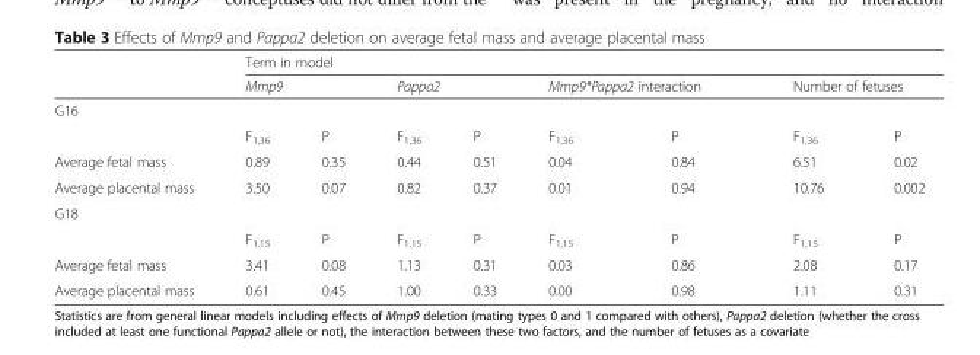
<table><thead><tr><td rowspan="2"></td><td colspan="8">Term in model</td></tr><tr><td colspan="2">Mmp9</td><td colspan="2">Pappa2</td><td colspan="2">Mmp9*Pappa2 interaction</td><td colspan="2">Number of fetuses</td></tr><tr><td colspan="9">G16</td></tr><tr><td></td><td>F<sub>1,36</sub></td><td>P</td><td>F<sub>1,36</sub></td><td>P</td><td>F<sub>1,36</sub></td><td>P</td><td>F<sub>1,36</sub></td><td>P</td></tr></thead><tbody><tr><td>Average fetal mass</td><td>0.89</td><td>0.35</td><td>0.44</td><td>0.51</td><td>0.04</td><td>0.84</td><td>6.51</td><td>0.02</td></tr><tr><td>Average placental mass</td><td>3.50</td><td>0.07</td><td>0.82</td><td>0.37</td><td>0.01</td><td>0.94</td><td>10.76</td><td>0.002</td></tr><tr><td colspan="9">G18</td></tr><tr><td></td><td>F<sub>1,15</sub></td><td>P</td><td>F<sub>1,15</sub></td><td>P</td><td>F<sub>1,15</sub></td><td>P</td><td>F<sub>1,15</sub></td><td>P</td></tr><tr><td>Average fetal mass</td><td>3.41</td><td>0.08</td><td>1.13</td><td>0.31</td><td>0.03</td><td>0.86</td><td>2.08</td><td>0.17</td></tr><tr><td>Average placental mass</td><td>0.61</td><td>0.45</td><td>1.00</td><td>0.33</td><td>0.00</td><td>0.98</td><td>1.11</td><td>0.31</td></tr></tbody></table>